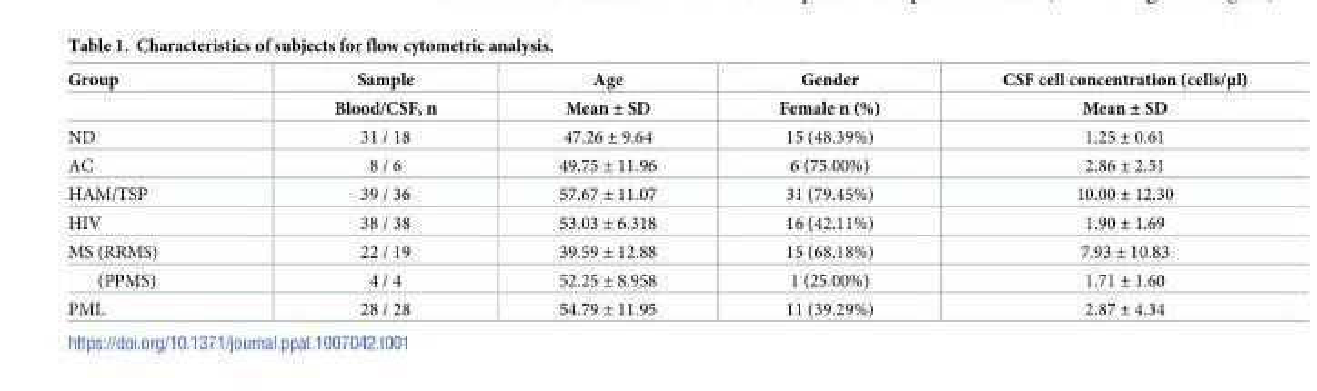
<table><thead><tr><td rowspan="2">Group</td><td rowspan="2">Sample Blood/CSF, n</td><td rowspan="2">Age Mean ± SD</td><td rowspan="2">Gender Female n (%)</td><td rowspan="2">CSF cell concentration (cells/μl) Mean ± SD</td></tr><tr></tr></thead><tbody><tr><td>ND</td><td>31 / 18</td><td>47.26 ± 9.64</td><td>15 (48.39%)</td><td>1.25 ± 0.61</td></tr><tr><td>AC</td><td>8 / 6</td><td>49.75 ± 11.96</td><td>6 (75.00%)</td><td>2.86 ± 2.51</td></tr><tr><td>HAM/TSP</td><td>39 / 36</td><td>57.67 ± 11.07</td><td>31 (79.45%)</td><td>10.00 ± 12.30</td></tr><tr><td>HIV</td><td>38 / 38</td><td>53.03 ± 6.318</td><td>16 (42.11%)</td><td>1.90 ± 1.69</td></tr><tr><td>MS (RRMS)</td><td>22 / 19</td><td>39.59 ± 12.88</td><td>15 (68.18%)</td><td>7.93 ± 10.83</td></tr><tr><td>(PPMS)</td><td>4 / 4</td><td>52.25 ± 8.958</td><td>1 (25.00%)</td><td>1.71 ± 1.60</td></tr><tr><td>PML</td><td>28 / 28</td><td>54.79 ± 11.95</td><td>11 (39.29%)</td><td>2.87 ± 4.34</td></tr></tbody></table>